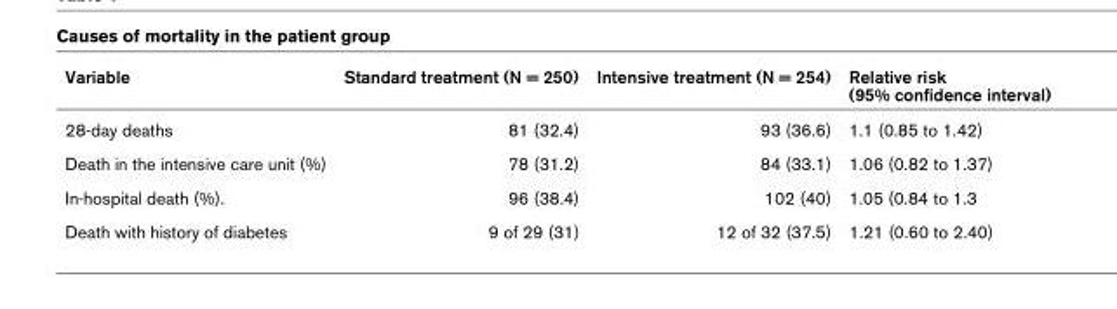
<table><thead><tr><td>Variable</td><td>Standard treatment (N = 250)</td><td>Intensive treatment (N = 254)</td><td>Relative risk (95% confidence interval)</td></tr></thead><tbody><tr><td>28-day deaths</td><td>81 (32.4)</td><td>93 (36.6)</td><td>1.1 (0.85 to 1.42)</td></tr><tr><td>Death in the intensive care unit (%)</td><td>78 (31.2)</td><td>84 (33.1)</td><td>1.06 (0.82 to 1.37)</td></tr><tr><td>In-hospital death (%).</td><td>96 (38.4)</td><td>102 (40)</td><td>1.05 (0.84 to 1.3</td></tr><tr><td>Death with history of diabetes</td><td>9 of 29 (31)</td><td>12 of 32 (37.5)</td><td>1.21 (0.60 to 2.40)</td></tr></tbody></table>